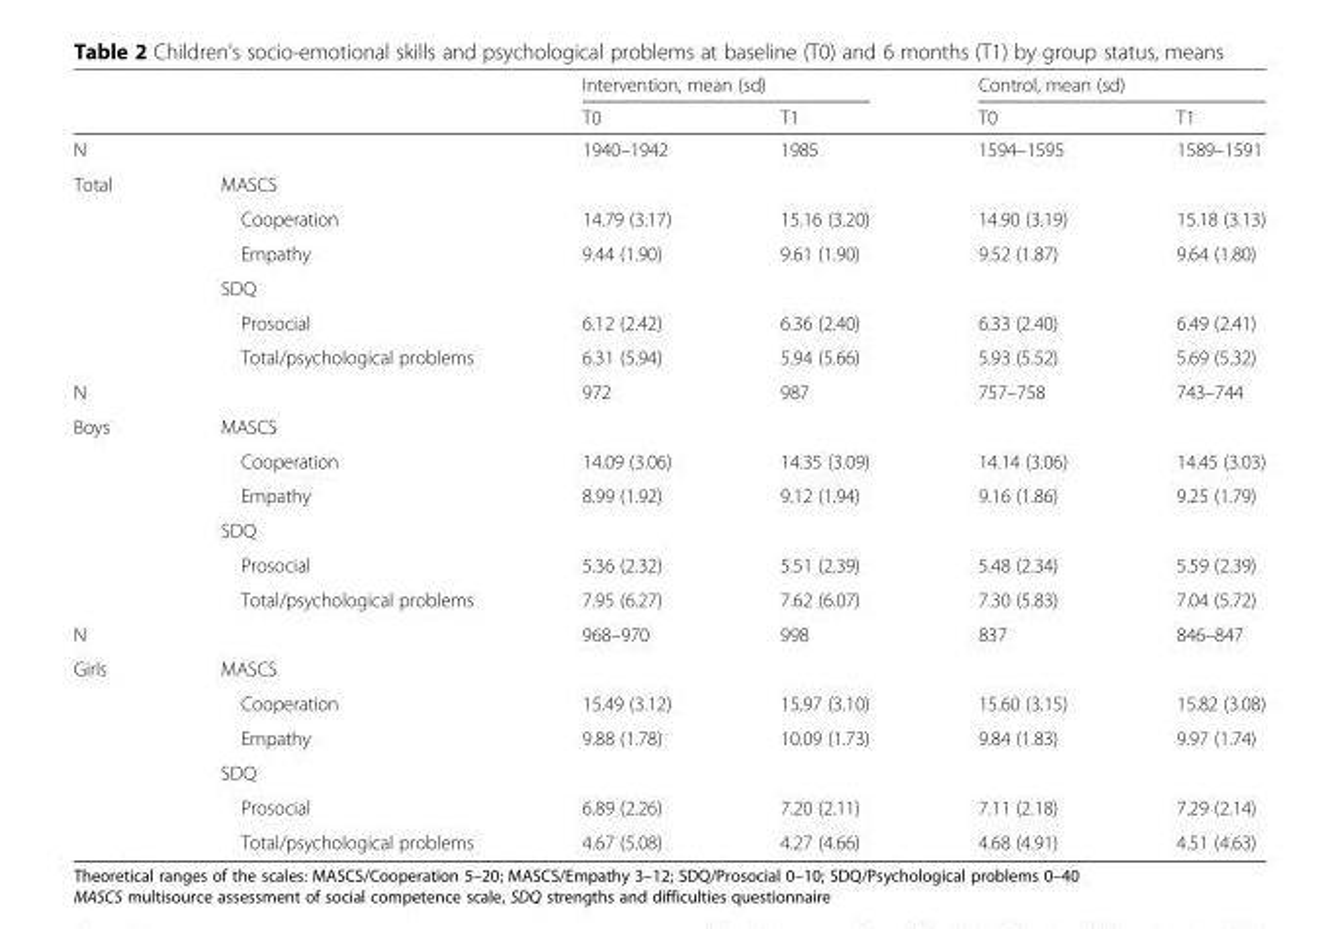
<table><thead><tr><td rowspan="2"></td><td rowspan="2"></td><td colspan="2">Intervention, mean (sd)</td><td colspan="2">Control, mean (sd)</td></tr><tr><td>T0</td><td>T1</td><td>T0</td><td>T1</td></tr></thead><tbody><tr><td>N</td><td></td><td>1940–1942</td><td>1985</td><td>1594–1595</td><td>1589–1591</td></tr><tr><td rowspan="6">Total</td><td>MASCS</td><td></td><td></td><td></td><td></td></tr><tr><td>Cooperation</td><td>14.79 (3.17)</td><td>15.16 (3.20)</td><td>14.90 (3.19)</td><td>15.18 (3.13)</td></tr><tr><td>Empathy</td><td>9.44 (1.90)</td><td>9.61 (1.90)</td><td>9.52 (1.87)</td><td>9.64 (1.80)</td></tr><tr><td>SDQ</td><td></td><td></td><td></td><td></td></tr><tr><td>Prosocial</td><td>6.12 (2.42)</td><td>6.36 (2.40)</td><td>6.33 (2.40)</td><td>6.49 (2.41)</td></tr><tr><td>Total/psychological problems</td><td>6.31 (5.94)</td><td>5.94 (5.66)</td><td>5.93 (5.52)</td><td>5.69 (5.32)</td></tr><tr><td>N</td><td></td><td>972</td><td>987</td><td>757–758</td><td>743–744</td></tr><tr><td rowspan="6">Boys</td><td>MASCS</td><td></td><td></td><td></td><td></td></tr><tr><td>Cooperation</td><td>14.09 (3.06)</td><td>14.35 (3.09)</td><td>14.14 (3.06)</td><td>14.45 (3.03)</td></tr><tr><td>Empathy</td><td>8.99 (1.92)</td><td>9.12 (1.94)</td><td>9.16 (1.86)</td><td>9.25 (1.79)</td></tr><tr><td>SDQ</td><td></td><td></td><td></td><td></td></tr><tr><td>Prosocial</td><td>5.36 (2.32)</td><td>5.51 (2.39)</td><td>5.48 (2.34)</td><td>5.59 (2.39)</td></tr><tr><td>Total/psychological problems</td><td>7.95 (6.27)</td><td>7.62 (6.07)</td><td>7.30 (5.83)</td><td>7.04 (5.72)</td></tr><tr><td>N</td><td></td><td>968–970</td><td>998</td><td>837</td><td>846–847</td></tr><tr><td rowspan="6">Girls</td><td>MASCS</td><td></td><td></td><td></td><td></td></tr><tr><td>Cooperation</td><td>15.49 (3.12)</td><td>15.97 (3.10)</td><td>15.60 (3.15)</td><td>15.82 (3.08)</td></tr><tr><td>Empathy</td><td>9.88 (1.78)</td><td>10.09 (1.73)</td><td>9.84 (1.83)</td><td>9.97 (1.74)</td></tr><tr><td>SDQ</td><td></td><td></td><td></td><td></td></tr><tr><td>Prosocial</td><td>6.89 (2.26)</td><td>7.20 (2.11)</td><td>7.11 (2.18)</td><td>7.29 (2.14)</td></tr><tr><td>Total/psychological problems</td><td>4.67 (5.08)</td><td>4.27 (4.66)</td><td>4.68 (4.91)</td><td>4.51 (4.63)</td></tr></tbody></table>